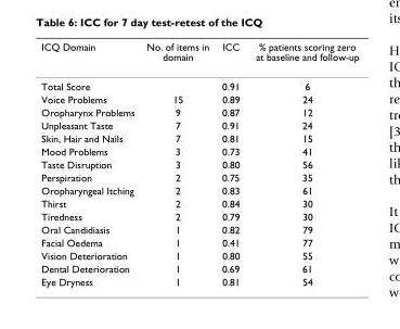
<table><thead><tr><td>ICQ Domain</td><td>No. of items in domain</td><td>ICC</td><td>% patients scoring zero at baseline and follow-up</td></tr></thead><tbody><tr><td>Total Score</td><td></td><td>0.91</td><td>6</td></tr><tr><td>Voice Problems</td><td>15</td><td>0.89</td><td>24</td></tr><tr><td>Oropharynx Problems</td><td>9</td><td>0.87</td><td>12</td></tr><tr><td>Unpleasant Taste</td><td>7</td><td>0.91</td><td>24</td></tr><tr><td>Skin, Hair and Nails</td><td>7</td><td>0.81</td><td>15</td></tr><tr><td>Mood Problems</td><td>3</td><td>0.73</td><td>41</td></tr><tr><td>Taste Disruption</td><td>3</td><td>0.80</td><td>56</td></tr><tr><td>Perspiration</td><td>2</td><td>0.75</td><td>35</td></tr><tr><td>Oropharyngeal Itching</td><td>2</td><td>0.83</td><td>61</td></tr><tr><td>Thirst</td><td>2</td><td>0.84</td><td>30</td></tr><tr><td>Tiredness</td><td>2</td><td>0.79</td><td>30</td></tr><tr><td>Oral Candidiasis</td><td>1</td><td>0.82</td><td>79</td></tr><tr><td>Facial Oedema</td><td>1</td><td>0.41</td><td>77</td></tr><tr><td>Vision Deterioration</td><td>1</td><td>0.80</td><td>55</td></tr><tr><td>Dental Deterioration</td><td>1</td><td>0.69</td><td>61</td></tr><tr><td>Eye Dryness</td><td>1</td><td>0.81</td><td>54</td></tr></tbody></table>